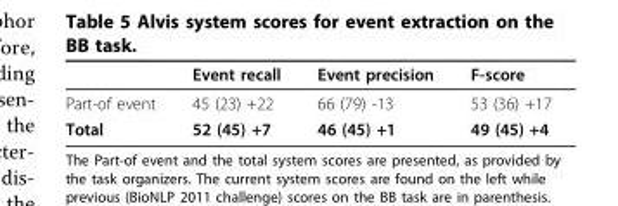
<table><thead><tr><td></td><td>Event recall</td><td>Event precision</td><td>F-score</td></tr></thead><tbody><tr><td>Part-of event</td><td>45 (23) +22</td><td>66 (79) -13</td><td>53 (36) +17</td></tr><tr><td>Total</td><td>52 (45) +7</td><td>46 (45) +1</td><td>49 (45) +4</td></tr></tbody></table>